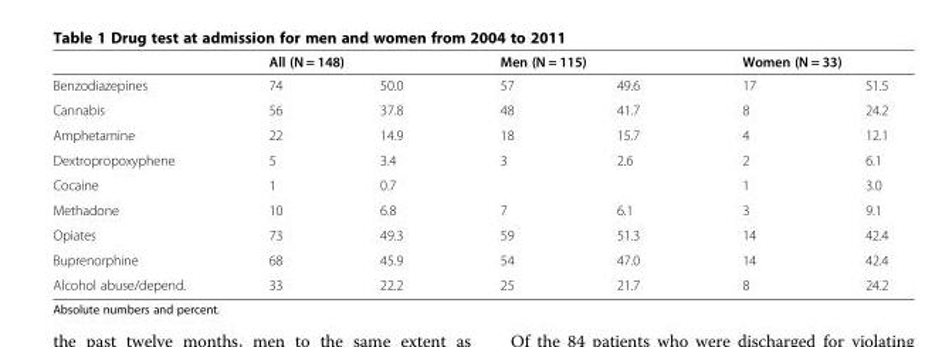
<table><thead><tr><td rowspan="2">Benzodiazepines</td><td colspan="2">All (N = 148)</td><td colspan="2">Men (N = 115)</td><td colspan="2">Women (N = 33)</td></tr><tr><td>74</td><td>50.0</td><td>57</td><td>49.6</td><td>17</td><td>51.5</td></tr></thead><tbody><tr><td>Cannabis</td><td>56</td><td>37.8</td><td>48</td><td>41.7</td><td>8</td><td>24.2</td></tr><tr><td>Amphetamine</td><td>22</td><td>14.9</td><td>18</td><td>15.7</td><td>4</td><td>12.1</td></tr><tr><td>Dextropropoxyphene</td><td>5</td><td>3.4</td><td>3</td><td>2.6</td><td>2</td><td>6.1</td></tr><tr><td>Cocaine</td><td>1</td><td>0.7</td><td></td><td></td><td>1</td><td>3.0</td></tr><tr><td>Methadone</td><td>10</td><td>6.8</td><td>7</td><td>6.1</td><td>3</td><td>9.1</td></tr><tr><td>Opiates</td><td>73</td><td>49.3</td><td>59</td><td>51.3</td><td>14</td><td>42.4</td></tr><tr><td>Buprenorphine</td><td>68</td><td>45.9</td><td>54</td><td>47.0</td><td>14</td><td>42.4</td></tr><tr><td>Alcohol abuse/depend.</td><td>33</td><td>22.2</td><td>25</td><td>21.7</td><td>8</td><td>24.2</td></tr></tbody></table>